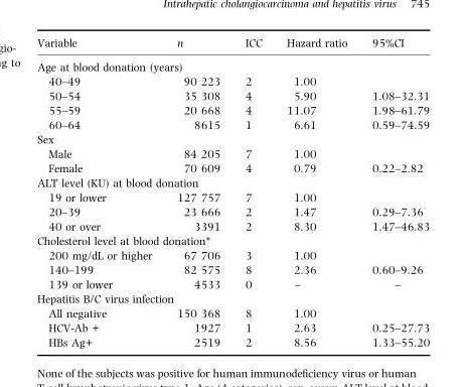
<table><thead><tr><td>Variable</td><td>n</td><td>ICC</td><td>Hazard ratio</td><td>95%CI</td></tr></thead><tbody><tr><td colspan="5">Age at blood donation (years)</td></tr><tr><td>40–49</td><td>90 223</td><td>2</td><td>1.00</td><td></td></tr><tr><td>50–54</td><td>35 308</td><td>4</td><td>5.90</td><td>1.08–32.31</td></tr><tr><td>55–59</td><td>20 668</td><td>4</td><td>11.07</td><td>1.98–61.79</td></tr><tr><td>60–64</td><td>8615</td><td>1</td><td>6.61</td><td>0.59–74.59</td></tr><tr><td colspan="5">Sex</td></tr><tr><td>Male</td><td>84 205</td><td>7</td><td>1.00</td><td></td></tr><tr><td>Female</td><td>70 609</td><td>4</td><td>0.79</td><td>0.22–2.82</td></tr><tr><td colspan="5">ALT level (KU) at blood donation</td></tr><tr><td>19 or lower</td><td>127 757</td><td>7</td><td>1.00</td><td></td></tr><tr><td>20–39</td><td>23 666</td><td>2</td><td>1.47</td><td>0.29–7.36</td></tr><tr><td>40 or over</td><td>3391</td><td>2</td><td>8.30</td><td>1.47–46.83</td></tr><tr><td colspan="5">Cholesterol level at blood donation*</td></tr><tr><td>200 mg/dL or higher</td><td>67 706</td><td>3</td><td>1.00</td><td></td></tr><tr><td>140–199</td><td>82 575</td><td>8</td><td>2.36</td><td>0.60–9.26</td></tr><tr><td>139 or lower</td><td>4533</td><td>0</td><td>–</td><td>–</td></tr><tr><td colspan="5">Hepatitis B/C virus infection</td></tr><tr><td>All negative</td><td>150 368</td><td>8</td><td>1.00</td><td></td></tr><tr><td>HCV-Ab +</td><td>1927</td><td>1</td><td>2.63</td><td>0.25–27.73</td></tr><tr><td>HBs Ag+</td><td>2519</td><td>2</td><td>8.56</td><td>1.33–55.20</td></tr></tbody></table>